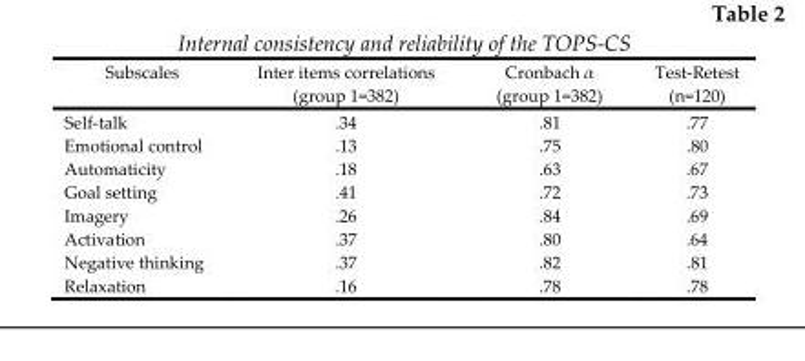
<table><thead><tr><td>Subscales</td><td>Inter items correlations (group 1=382)</td><td>Cronbach α (group 1=382)</td><td>Test-Retest (n=120)</td></tr></thead><tbody><tr><td>Self-talk</td><td>.34</td><td>.81</td><td>.77</td></tr><tr><td>Emotional control</td><td>.13</td><td>.75</td><td>.80</td></tr><tr><td>Automaticity</td><td>.18</td><td>.63</td><td>.67</td></tr><tr><td>Goal setting</td><td>.41</td><td>.72</td><td>.73</td></tr><tr><td>Imagery</td><td>.26</td><td>.84</td><td>.69</td></tr><tr><td>Activation</td><td>.37</td><td>.80</td><td>.64</td></tr><tr><td>Negative thinking</td><td>.37</td><td>.82</td><td>.81</td></tr><tr><td>Relaxation</td><td>.16</td><td>.78</td><td>.78</td></tr></tbody></table>